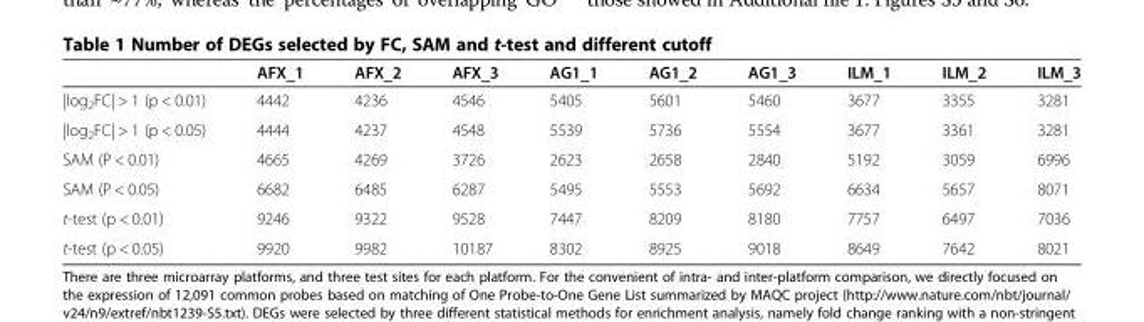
<table><thead><tr><td></td><td>AFX_1</td><td>AFX_2</td><td>AFX_3</td><td>AG1_1</td><td>AG1_2</td><td>AG1_3</td><td>ILM_1</td><td>ILM_2</td><td>ILM_3</td></tr></thead><tbody><tr><td>|log<sub>2</sub>FC| &gt; 1 (p &lt; 0.01)</td><td>4442</td><td>4236</td><td>4546</td><td>5405</td><td>5601</td><td>5460</td><td>3677</td><td>3355</td><td>3281</td></tr><tr><td>|log<sub>2</sub>FC| &gt; 1 (p &lt; 0.05)</td><td>4444</td><td>4237</td><td>4548</td><td>5539</td><td>5736</td><td>5554</td><td>3677</td><td>3361</td><td>3281</td></tr><tr><td>SAM (P &lt; 0.01)</td><td>4665</td><td>4269</td><td>3726</td><td>2623</td><td>2658</td><td>2840</td><td>5192</td><td>3059</td><td>6996</td></tr><tr><td>SAM (P &lt; 0.05)</td><td>6682</td><td>6485</td><td>6287</td><td>5495</td><td>5553</td><td>5692</td><td>6634</td><td>5657</td><td>8071</td></tr><tr><td>t-test (p &lt; 0.01)</td><td>9246</td><td>9322</td><td>9528</td><td>7447</td><td>8209</td><td>8180</td><td>7757</td><td>6497</td><td>7036</td></tr><tr><td>t-test (p &lt; 0.05)</td><td>9920</td><td>9982</td><td>10187</td><td>8302</td><td>8925</td><td>9018</td><td>8649</td><td>7642</td><td>8021</td></tr></tbody></table>